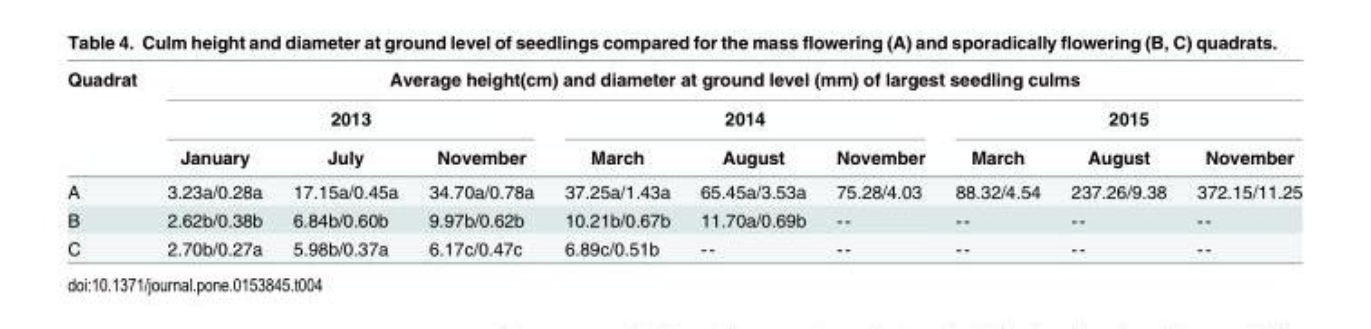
<table><thead><tr><td rowspan="3">Quadrat</td><td colspan="9">Average height(cm) and diameter at ground level (mm) of largest seedling culms</td></tr><tr><td colspan="3">2013</td><td colspan="3">2014</td><td colspan="3">2015</td></tr><tr><td>January</td><td>July</td><td>November</td><td>March</td><td>August</td><td>November</td><td>March</td><td>August</td><td>November</td></tr></thead><tbody><tr><td>A</td><td>3.23a/0.28a</td><td>17.15a/0.45a</td><td>34.70a/0.78a</td><td>37.25a/1.43a</td><td>65.45a/3.53a</td><td>75.28/4.03</td><td>88.32/4.54</td><td>237.26/9.38</td><td>372.15/11.25</td></tr><tr><td>B</td><td>2.62b/0.38b</td><td>6.84b/0.60b</td><td>9.97b/0.62b</td><td>10.21b/0.67b</td><td>11.70a/0.69b</td><td>--</td><td>--</td><td>--</td><td>--</td></tr><tr><td>C</td><td>2.70b/0.27a</td><td>5.98b/0.37a</td><td>6.17c/0.47c</td><td>6.89c/0.51b</td><td>--</td><td>--</td><td>--</td><td>--</td><td>--</td></tr></tbody></table>